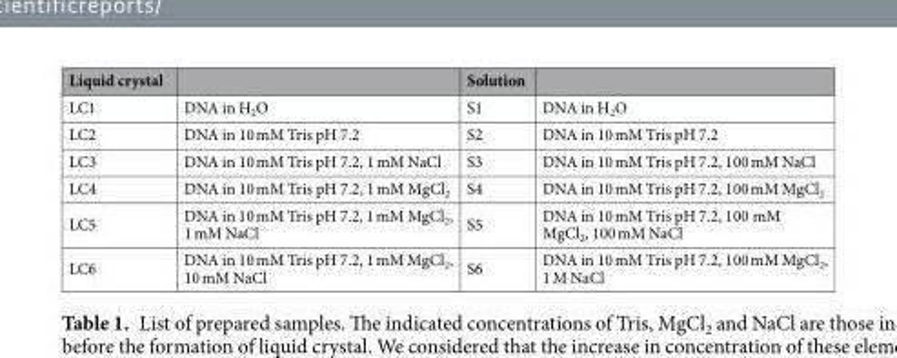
<table><thead><tr><td>Liquid crystal</td><td></td><td>Solution</td><td></td></tr></thead><tbody><tr><td>LC1</td><td>DNA in H<sub>2</sub>O</td><td>S1</td><td>DNA in H<sub>2</sub>O</td></tr><tr><td>LC2</td><td>DNA in 10 mM Tris pH 7.2</td><td>S2</td><td>DNA in 10 mM Tris pH 7.2</td></tr><tr><td>LC3</td><td>DNA in 10 mM Tris pH 7.2, 1 mM NaCl</td><td>S3</td><td>DNA in 10 mM Tris pH 7.2, 100 mM NaCl</td></tr><tr><td>LC4</td><td>DNA in 10 mM Tris pH 7.2, 1 mM MgCl<sub>2</sub></td><td>S4</td><td>DNA in 10 mM Tris pH 7.2, 100 mM MgCl<sub>2</sub></td></tr><tr><td>LC5</td><td>DNA in 10 mM Tris pH 7.2, 1 mM MgCl<sub>2</sub>, 1 mM NaCl</td><td>S5</td><td>DNA in 10 mM Tris pH 7.2, 100 mM MgCl<sub>2</sub>, 100 mM NaCl</td></tr><tr><td>LC6</td><td>DNA in 10 mM Tris pH 7.2, 1 mM MgCl<sub>2</sub>, 10 mM NaCl</td><td>S6</td><td>DNA in 10 mM Tris pH 7.2, 100 mM MgCl<sub>2</sub>, 1 M NaCl</td></tr></tbody></table>